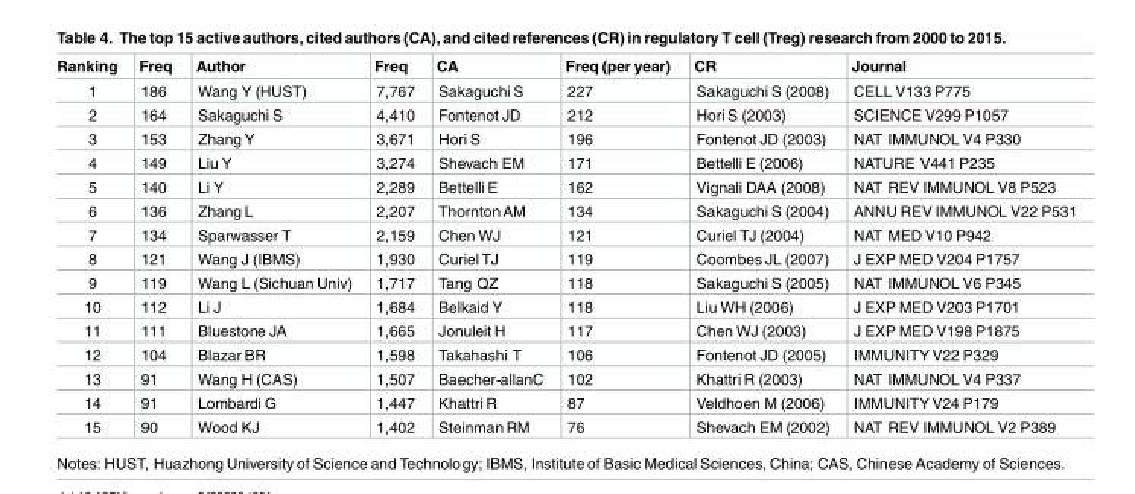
<table><thead><tr><td>Ranking</td><td>Freq</td><td>Author</td><td>Freq</td><td>CA</td><td>Freq (per year)</td><td>CR</td><td>Journal</td></tr></thead><tbody><tr><td>1</td><td>186</td><td>Wang Y (HUST)</td><td>7,767</td><td>Sakaguchi S</td><td>227</td><td>Sakaguchi S (2008)</td><td>CELL V133 P775</td></tr><tr><td>2</td><td>164</td><td>Sakaguchi S</td><td>4,410</td><td>Fontenot JD</td><td>212</td><td>Hori S (2003)</td><td>SCIENCE V299 P1057</td></tr><tr><td>3</td><td>153</td><td>Zhang Y</td><td>3,671</td><td>Hori S</td><td>196</td><td>Fontenot JD (2003)</td><td>NAT IMMUNOL V4 P330</td></tr><tr><td>4</td><td>149</td><td>Liu Y</td><td>3,274</td><td>Shevach EM</td><td>171</td><td>Bettelli E (2006)</td><td>NATURE V441 P235</td></tr><tr><td>5</td><td>140</td><td>Li Y</td><td>2,289</td><td>Bettelli E</td><td>162</td><td>Vignali DAA (2008)</td><td>NAT REV IMMUNOL V8 P523</td></tr><tr><td>6</td><td>136</td><td>Zhang L</td><td>2,207</td><td>ThorntonAM</td><td>134</td><td>Sakaguchi S (2004)</td><td>ANNU REV IMMUNOL V22 P531</td></tr><tr><td>7</td><td>134</td><td>Sparwasser T</td><td>2,159</td><td>Chen WJ</td><td>121</td><td>Curiel TJ (2004)</td><td>NAT MED V10 P942</td></tr><tr><td>8</td><td>121</td><td>Wang J (IBMS)</td><td>1,930</td><td>Curiel TJ</td><td>119</td><td>Coombes JL (2007)</td><td>J EXP MED V204 P1757</td></tr><tr><td>9</td><td>119</td><td>Wang L (Sichuan Univ)</td><td>1,717</td><td>Tang QZ</td><td>118</td><td>Sakaguchi S (2005)</td><td>NAT IMMUNOL V6 P345</td></tr><tr><td>10</td><td>112</td><td>Li J</td><td>1,684</td><td>Belkaid Y</td><td>118</td><td>Liu WH (2006)</td><td>J EXP MED V203 P1701</td></tr><tr><td>11</td><td>111</td><td>Bluestone JA</td><td>1,665</td><td>Jonuleit H</td><td>117</td><td>Chen WJ (2003)</td><td>J EXP MED V198 P1875</td></tr><tr><td>12</td><td>104</td><td>Blazar BR</td><td>1,598</td><td>Takahashi T</td><td>106</td><td>Fontenot JD (2005)</td><td>IMMUNITY V22 P329</td></tr><tr><td>13</td><td>91</td><td>Wang H (CAS)</td><td>1,507</td><td>Baecher-allanC</td><td>102</td><td>Khattri R (2003)</td><td>NAT IMMUNOL V4 P337</td></tr><tr><td>14</td><td>91</td><td>Lombardi G</td><td>1,447</td><td>Khattri R</td><td>87</td><td>Veldhoen M (2006)</td><td>IMMUNITY V24 P179</td></tr><tr><td>15</td><td>90</td><td>Wood KJ</td><td>1,402</td><td>Steinman RM</td><td>76</td><td>Shevach EM (2002)</td><td>NAT REV IMMUNOL V2 P389</td></tr></tbody></table>